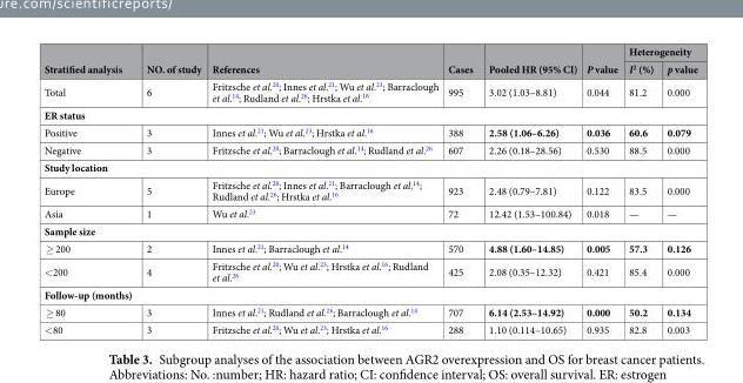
<table><thead><tr><td rowspan="2">Stratified analysis</td><td rowspan="2">NO. of study</td><td rowspan="2">References</td><td rowspan="2">Cases</td><td rowspan="2">Pooled HR (95% CI)</td><td rowspan="2">P value</td><td colspan="2">Heterogeneity</td></tr><tr><td>I<sup>2</sup> (%)</td><td>p value</td></tr></thead><tbody><tr><td>Total</td><td>6</td><td>Fritzsche et al.<sup>20</sup>; Innes et al.<sup>21</sup>; Wu et al.<sup>23</sup>; Barraclough et al.<sup>14</sup>; Rudland et al.<sup>26</sup>; Hrstka et al.<sup>16</sup></td><td>995</td><td>3.02 (1.03–8.81)</td><td>0.044</td><td>81.2</td><td>0.000</td></tr><tr><td colspan="8">ER status</td></tr><tr><td>Positive</td><td>3</td><td>Innes et al.<sup>21</sup>; Wu et al.<sup>23</sup>; Hrstka et al.<sup>16</sup></td><td>388</td><td>2.58 (1.06–6.26)</td><td>0.036</td><td>60.6</td><td>0.079</td></tr><tr><td>Negative</td><td>3</td><td>Fritzsche et al.<sup>20</sup>; Barraclough et al.<sup>14</sup>; Rudland et al.<sup>26</sup></td><td>607</td><td>2.26 (0.18–28.56)</td><td>0.530</td><td>88.5</td><td>0.000</td></tr><tr><td colspan="8">Study location</td></tr><tr><td>Europe</td><td>5</td><td>Fritzsche et al.<sup>20</sup>; Innes et al.<sup>21</sup>; Barraclough et al.<sup>14</sup>; Rudland et al.<sup>26</sup>; Hrstka et al.<sup>16</sup></td><td>923</td><td>2.48 (0.79–7.81)</td><td>0.122</td><td>83.5</td><td>0.000</td></tr><tr><td>Asia</td><td>1</td><td>Wu et al.<sup>23</sup></td><td>72</td><td>12.42 (1.53–100.84)</td><td>0.018</td><td>—</td><td>—</td></tr><tr><td colspan="8">Sample size</td></tr><tr><td>≥ 200</td><td>2</td><td>Innes et al.<sup>21</sup>; Barraclough et al.<sup>14</sup></td><td>570</td><td>4.88 (1.60–14.85)</td><td>0.005</td><td>57.3</td><td>0.126</td></tr><tr><td>&lt;200</td><td>4</td><td>Fritzsche et al.<sup>20</sup>; Wu et al.<sup>23</sup>; Hrstka et al.<sup>16</sup>; Rudland et al.<sup>26</sup></td><td>425</td><td>2.08 (0.35–12.32)</td><td>0.421</td><td>85.4</td><td>0.000</td></tr><tr><td colspan="8">Follow-up (months)</td></tr><tr><td>≥ 80</td><td>3</td><td>Innes et al.<sup>21</sup>; Rudland et al.<sup>26</sup>; Barraclough et al.<sup>14</sup></td><td>707</td><td>6.14 (2.53–14.92)</td><td>0.000</td><td>50.2</td><td>0.134</td></tr><tr><td>&lt;80</td><td>3</td><td>Fritzsche et al.<sup>20</sup>; Wu et al.<sup>23</sup>; Hrstka et al.<sup>16</sup></td><td>288</td><td>1.10 (0.114–10.65)</td><td>0.935</td><td>82.8</td><td>0.003</td></tr></tbody></table>